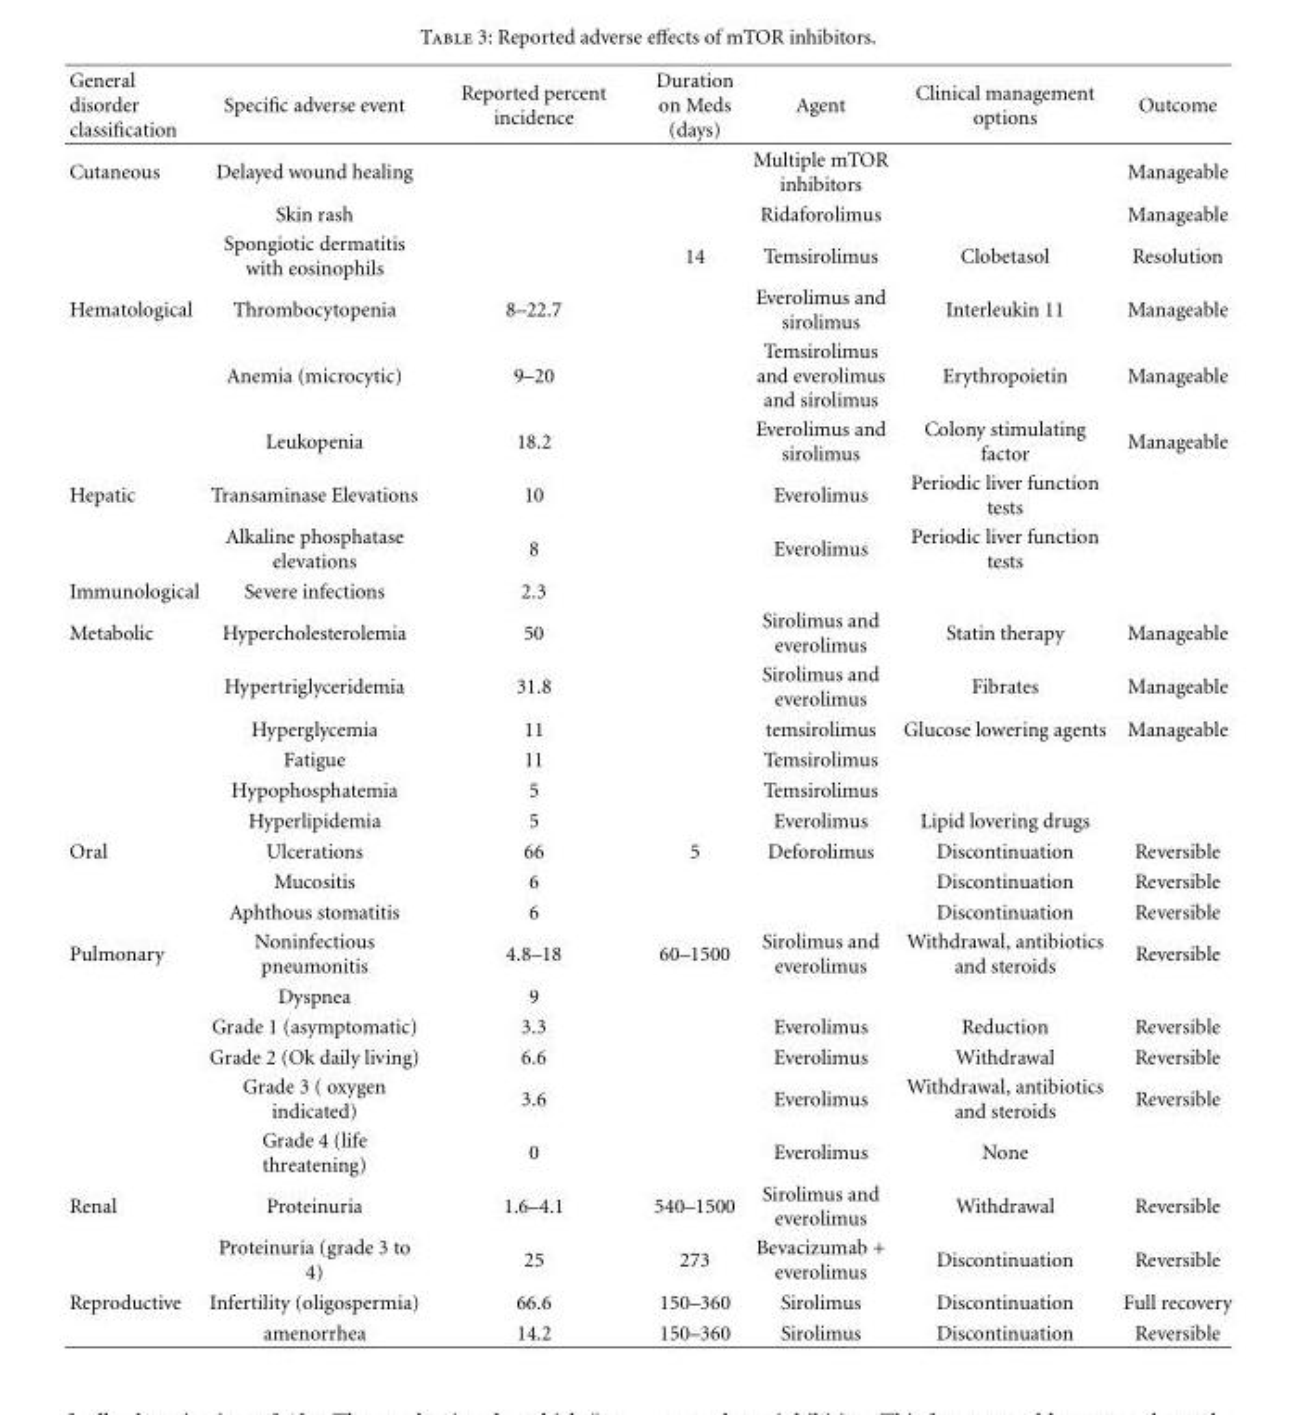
<table><thead><tr><td>General disorder classification</td><td>Specific adverse event</td><td>Reported percent incidence</td><td>Duration on Meds (days)</td><td>Agent</td><td>Clinical management options</td><td>Outcome</td></tr></thead><tbody><tr><td rowspan="3">Cutaneous</td><td>Delayed wound healing</td><td></td><td></td><td>Multiple mTOR inhibitors</td><td></td><td>Manageable</td></tr><tr><td>Skin rash</td><td></td><td></td><td>Ridaforolimus</td><td></td><td>Manageable</td></tr><tr><td>Spongiotic dermatitis with eosinophils</td><td></td><td>14</td><td>Temsirolimus</td><td>Clobetasol</td><td>Resolution</td></tr><tr><td rowspan="3">Hematological</td><td>Thrombocytopenia</td><td>8–22.7</td><td></td><td>Everolimus and sirolimus</td><td>Interleukin 11</td><td>Manageable</td></tr><tr><td>Anemia (microcytic)</td><td>9–20</td><td></td><td>Temsirolimus and everolimus and sirolimus</td><td>Erythropoietin</td><td>Manageable</td></tr><tr><td>Leukopenia</td><td>18.2</td><td></td><td>Everolimus and sirolimus</td><td>Colony stimulating factor</td><td>Manageable</td></tr><tr><td rowspan="2">Hepatic</td><td>Transaminase Elevations</td><td>10</td><td></td><td>Everolimus</td><td>Periodic liver function tests</td><td></td></tr><tr><td>Alkaline phosphatase elevations</td><td>8</td><td></td><td>Everolimus</td><td>Periodic liver function tests</td><td></td></tr><tr><td>Immunological</td><td>Severe infections</td><td>2.3</td><td></td><td></td><td></td><td></td></tr><tr><td rowspan="6">Metabolic</td><td>Hypercholesterolemia</td><td>50</td><td></td><td>Sirolimus and everolimus</td><td>Statin therapy</td><td>Manageable</td></tr><tr><td>Hypertriglyceridemia</td><td>31.8</td><td></td><td>Sirolimus and everolimus</td><td>Fibrates</td><td>Manageable</td></tr><tr><td>Hyperglycemia</td><td>11</td><td></td><td>temsirolimus</td><td>Glucose lowering agents</td><td>Manageable</td></tr><tr><td>Fatigue</td><td>11</td><td></td><td>Temsirolimus</td><td></td><td></td></tr><tr><td>Hypophosphatemia</td><td>5</td><td></td><td>Temsirolimus</td><td></td><td></td></tr><tr><td>Hyperlipidemia</td><td>5</td><td></td><td>Everolimus</td><td>Lipid lovering drugs</td><td></td></tr><tr><td rowspan="3">Oral</td><td>Ulcerations</td><td>66</td><td>5</td><td>Deforolimus</td><td>Discontinuation</td><td>Reversible</td></tr><tr><td>Mucositis</td><td>6</td><td></td><td></td><td>Discontinuation</td><td>Reversible</td></tr><tr><td>Aphthous stomatitis</td><td>6</td><td></td><td></td><td>Discontinuation</td><td>Reversible</td></tr><tr><td rowspan="6">Pulmonary</td><td>Noninfectious pneumonitis</td><td>4.8–18</td><td>60–1500</td><td>Sirolimus and everolimus</td><td>Withdrawal, antibiotics and steroids</td><td>Reversible</td></tr><tr><td>Dyspnea</td><td>9</td><td></td><td></td><td></td><td></td></tr><tr><td>Grade 1 (asymptomatic)</td><td>3.3</td><td></td><td>Everolimus</td><td>Reduction</td><td>Reversible</td></tr><tr><td>Grade 2 (Ok daily living)</td><td>6.6</td><td></td><td>Everolimus</td><td>Withdrawal</td><td>Reversible</td></tr><tr><td>Grade 3 ( oxygen indicated)</td><td>3.6</td><td></td><td>Everolimus</td><td>Withdrawal, antibiotics and steroids</td><td>Reversible</td></tr><tr><td>Grade 4 (life threatening)</td><td>0</td><td></td><td>Everolimus</td><td>None</td><td></td></tr><tr><td rowspan="2">Renal</td><td>Proteinuria</td><td>1.6–4.1</td><td>540–1500</td><td>Sirolimus and everolimus</td><td>Withdrawal</td><td>Reversible</td></tr><tr><td>Proteinuria (grade 3 to 4)</td><td>25</td><td>273</td><td>Bevacizumab + everolimus</td><td>Discontinuation</td><td>Reversible</td></tr><tr><td rowspan="2">Reproductive</td><td>Infertility (oligospermia)</td><td>66.6</td><td>150–360</td><td>Sirolimus</td><td>Discontinuation</td><td>Full recovery</td></tr><tr><td>amenorrhea</td><td>14.2</td><td>150–360</td><td>Sirolimus</td><td>Discontinuation</td><td>Reversible</td></tr></tbody></table>